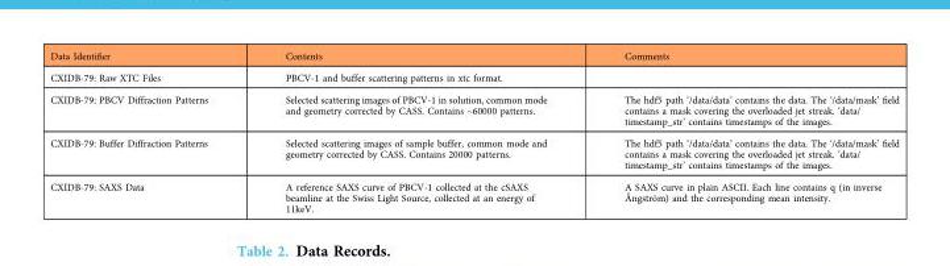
<table><thead><tr><td>Data Identifier</td><td>Contents</td><td>Comments</td></tr></thead><tbody><tr><td>CXIDB-79: Raw XTC Files</td><td>PBCV-1 and buffer scattering patterns in xtc format.</td><td></td></tr><tr><td>CXIDB-79: PBCV Diffraction Patterns</td><td>Selected scattering images of PBCV-1 in solution, common mode and geometry corrected by CASS. Contains ~60000 patterns.</td><td>The hdf5 path ‘/data/data’ contains the data. The ‘/data/mask’ field contains a mask covering the overloaded jet streak. ‘data/ timestamp_str’ contains timestamps of the images.</td></tr><tr><td>CXIDB-79: Buffer Diffraction Patterns</td><td>Selected scattering images of sample buffer, common mode and geometry corrected by CASS. Contains 20000 patterns.</td><td>The hdf5 path ‘/data/data’ contains the data. The ‘/data/mask’ field contains a mask covering the overloaded jet streak. ‘data/ timestamp_str’ contains timestamps of the images.</td></tr><tr><td>CXIDB-79: SAXS Data</td><td>A reference SAXS curve of PBCV-1 collected at the cSAXS beamline at the Swiss Light Source, collected at an energy of 11keV.</td><td>A SAXS curve in plain ASCII. Each line contains q (in inverse Ångström) and the corresponding mean intensity.</td></tr></tbody></table>